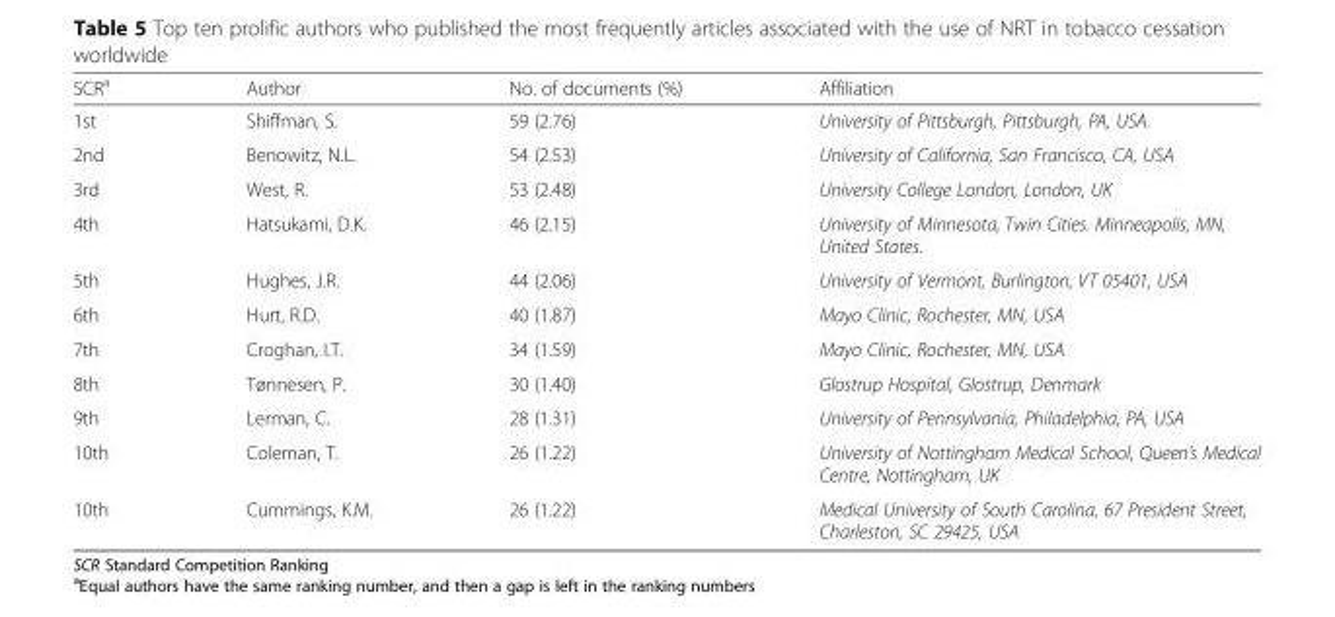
<table><thead><tr><td>SCR<sup>a</sup></td><td>Author</td><td>No. of documents (%)</td><td>Affiliation</td></tr></thead><tbody><tr><td>1st</td><td>Shiffman, S.</td><td>59 (2.76)</td><td>University of Pittsburgh, Pittsburgh, PA, USA.</td></tr><tr><td>2nd</td><td>Benowitz, N.L.</td><td>54 (2.53)</td><td>University of California, San Francisco, CA, USA</td></tr><tr><td>3rd</td><td>West, R.</td><td>53 (2.48)</td><td>University College London, London, UK</td></tr><tr><td>4th</td><td>Hatsukami, D.K.</td><td>46 (2.15)</td><td>University of Minnesota, Twin Cities. Minneapolis, MN, United States.</td></tr><tr><td>5th</td><td>Hughes, J.R.</td><td>44 (2.06)</td><td>University of Vermont, Burlington, VT 05401, USA</td></tr><tr><td>6th</td><td>Hurt, R.D.</td><td>40 (1.87)</td><td>Mayo Clinic, Rochester, MN, USA</td></tr><tr><td>7th</td><td>Croghan, I.T.</td><td>34 (1.59)</td><td>Mayo Clinic, Rochester, MN, USA</td></tr><tr><td>8th</td><td>Tønnesen, P.</td><td>30 (1.40)</td><td>Glostrup Hospital, Glostrup, Denmark</td></tr><tr><td>9th</td><td>Lerman, C.</td><td>28 (1.31)</td><td>University of Pennsylvania, Philadelphia, PA, USA</td></tr><tr><td>10th</td><td>Coleman, T.</td><td>26 (1.22)</td><td>University of Nottingham Medical School, Queen’s Medical Centre, Nottingham, UK</td></tr><tr><td>10th</td><td>Cummings, K.M.</td><td>26 (1.22)</td><td>Medical University of South Carolina, 67 President Street, Charleston, SC 29425, USA</td></tr></tbody></table>